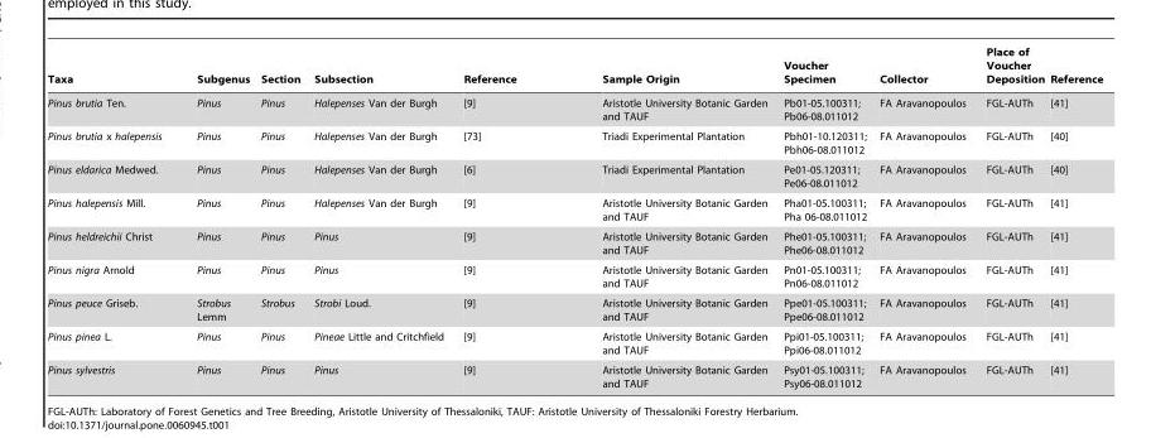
<table><thead><tr><td>Taxa</td><td>Subgenus</td><td>Section</td><td>Subsection</td><td>Reference</td><td>Sample Origin</td><td>Voucher Specimen</td><td>Collector</td><td>Place of Voucher Deposition</td><td>Reference</td></tr></thead><tbody><tr><td>Pinus brutia Ten.</td><td>Pinus</td><td>Pinus</td><td>Halepenses Van der Burgh</td><td>[9]</td><td>Aristotle University Botanic Garden and TAUF</td><td>Pb01-05.100311; Pb06-08.011012</td><td>FA Aravanopoulos</td><td>FGL-AUTh</td><td>[41]</td></tr><tr><td>Pinus brutia x halepensis</td><td>Pinus</td><td>Pinus</td><td>Halepenses Van der Burgh</td><td>[73]</td><td>Triadi Experimental Plantation</td><td>Pbh01-10.120311; Pbh06-08.011012</td><td>FA Aravanopoulos</td><td>FGL-AUTh</td><td>[40]</td></tr><tr><td>Pinus eldarica Medwed.</td><td>Pinus</td><td>Pinus</td><td>Halepenses Van der Burgh</td><td>[6]</td><td>Triadi Experimental Plantation</td><td>Pe01-05.120311; Pe06-08.011012</td><td>FA Aravanopoulos</td><td>FGL-AUTh</td><td>[40]</td></tr><tr><td>Pinus halepensis Mill.</td><td>Pinus</td><td>Pinus</td><td>Halepenses Van der Burgh</td><td>[9]</td><td>Aristotle University Botanic Garden and TAUF</td><td>Pha01-05.100311; Pha 06-08.011012</td><td>FA Aravanopoulos</td><td>FGL-AUTh</td><td>[41]</td></tr><tr><td>Pinus heldreichii Christ</td><td>Pinus</td><td>Pinus</td><td>Pinus</td><td>[9]</td><td>Aristotle University Botanic Garden and TAUF</td><td>Phe01-05.100311; Phe06-08.011012</td><td>FA Aravanopoulos</td><td>FGL-AUTh</td><td>[41]</td></tr><tr><td>Pinus nigra Arnold</td><td>Pinus</td><td>Pinus</td><td>Pinus</td><td>[9]</td><td>Aristotle University Botanic Garden and TAUF</td><td>Pn01-05.100311; Pn06-08.011012</td><td>FA Aravanopoulos</td><td>FGL-AUTh</td><td>[41]</td></tr><tr><td>Pinus peuce Griseb.</td><td>Strobus Lemm</td><td>Strobus</td><td>Strobi Loud.</td><td>[9]</td><td>Aristotle University Botanic Garden and TAUF</td><td>Ppe01-05.100311; Ppe06-08.011012</td><td>FA Aravanopoulos</td><td>FGL-AUTh</td><td>[41]</td></tr><tr><td>Pinus pinea L.</td><td>Pinus</td><td>Pinus</td><td>Pineae Little and Critchfield</td><td>[9]</td><td>Aristotle University Botanic Garden and TAUF</td><td>Ppi01-05.100311; Ppi06-08.011012</td><td>FA Aravanopoulos</td><td>FGL-AUTh</td><td>[41]</td></tr><tr><td>Pinus sylvestris</td><td>Pinus</td><td>Pinus</td><td>Pinus</td><td>[9]</td><td>Aristotle University Botanic Garden and TAUF</td><td>Psy01-05.100311; Psy06-08.011012</td><td>FA Aravanopoulos</td><td>FGL-AUTh</td><td>[41]</td></tr></tbody></table>